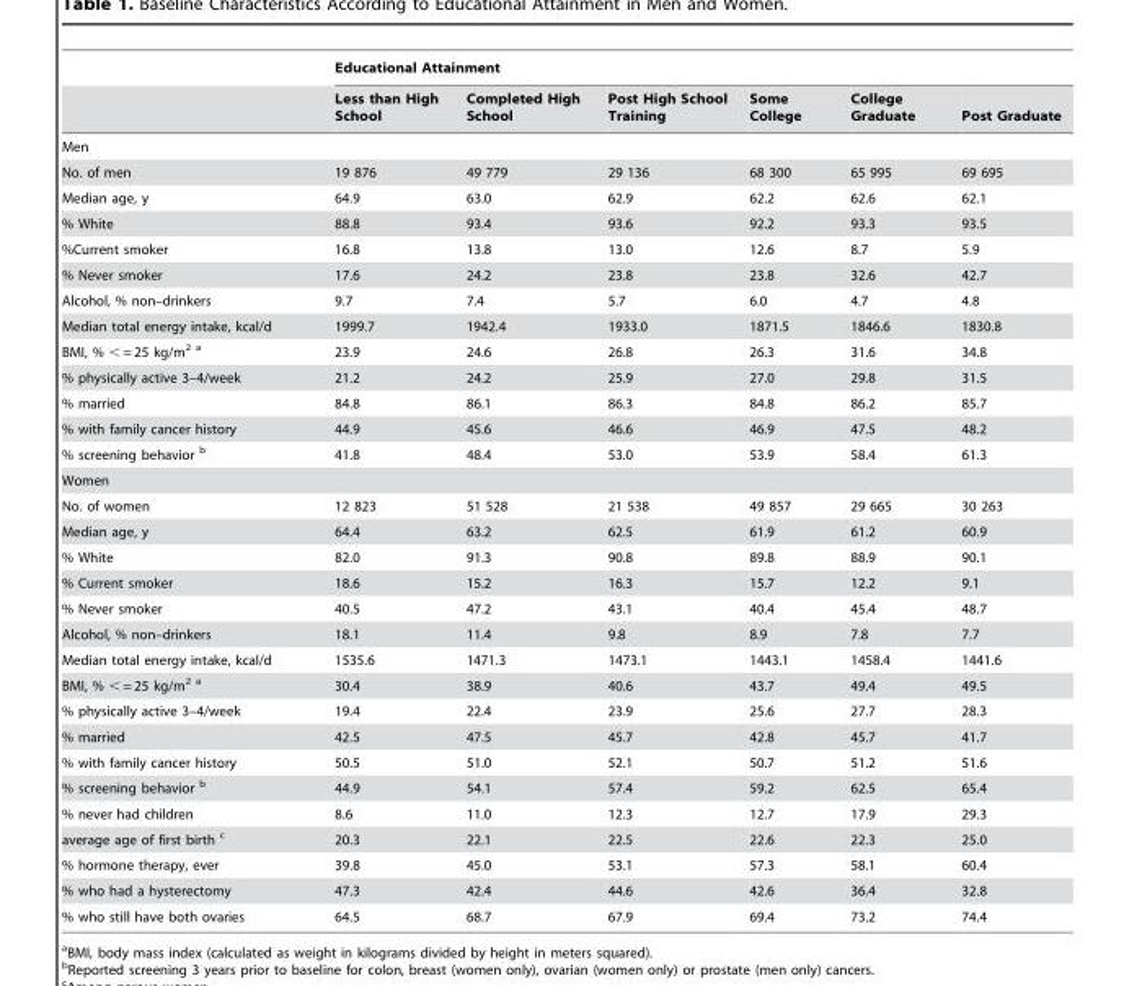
<table><thead><tr><td rowspan="2"></td><td colspan="6">Educational Attainment</td></tr><tr><td>Less than High School</td><td>Completed High School</td><td>Post High School Training</td><td>Some College</td><td>College Graduate</td><td>Post Graduate</td></tr></thead><tbody><tr><td colspan="7">Men</td></tr><tr><td>No. of men</td><td>19 876</td><td>49 779</td><td>29 136</td><td>68 300</td><td>65 995</td><td>69 695</td></tr><tr><td>Median age, y</td><td>64.9</td><td>63.0</td><td>62.9</td><td>62.2</td><td>62.6</td><td>62.1</td></tr><tr><td>% White</td><td>88.8</td><td>93.4</td><td>93.6</td><td>92.2</td><td>93.3</td><td>93.5</td></tr><tr><td>%Current smoker</td><td>16.8</td><td>13.8</td><td>13.0</td><td>12.6</td><td>8.7</td><td>5.9</td></tr><tr><td>% Never smoker</td><td>17.6</td><td>24.2</td><td>23.8</td><td>23.8</td><td>32.6</td><td>42.7</td></tr><tr><td>Alcohol, % non–drinkers</td><td>9.7</td><td>7.4</td><td>5.7</td><td>6.0</td><td>4.7</td><td>4.8</td></tr><tr><td>Median total energy intake, kcal/d</td><td>1999.7</td><td>1942.4</td><td>1933.0</td><td>1871.5</td><td>1846.6</td><td>1830.8</td></tr><tr><td>BMI, % &lt; = 25 kg/m<sup>2</sup> a</td><td>23.9</td><td>24.6</td><td>26.8</td><td>26.3</td><td>31.6</td><td>34.8</td></tr><tr><td>% physically active 3–4/week</td><td>21.2</td><td>24.2</td><td>25.9</td><td>27.0</td><td>29.8</td><td>31.5</td></tr><tr><td>% married</td><td>84.8</td><td>86.1</td><td>86.3</td><td>84.8</td><td>86.2</td><td>85.7</td></tr><tr><td>% with family cancer history</td><td>44.9</td><td>45.6</td><td>46.6</td><td>46.9</td><td>47.5</td><td>48.2</td></tr><tr><td>% screening behavior b</td><td>41.8</td><td>48.4</td><td>53.0</td><td>53.9</td><td>58.4</td><td>61.3</td></tr><tr><td colspan="7">Women</td></tr><tr><td>No. of women</td><td>12 823</td><td>51 528</td><td>21 538</td><td>49 857</td><td>29 665</td><td>30 263</td></tr><tr><td>Median age, y</td><td>64.4</td><td>63.2</td><td>62.5</td><td>61.9</td><td>61.2</td><td>60.9</td></tr><tr><td>% White</td><td>82.0</td><td>91.3</td><td>90.8</td><td>89.8</td><td>88.9</td><td>90.1</td></tr><tr><td>% Current smoker</td><td>18.6</td><td>15.2</td><td>16.3</td><td>15.7</td><td>12.2</td><td>9.1</td></tr><tr><td>% Never smoker</td><td>40.5</td><td>47.2</td><td>43.1</td><td>40.4</td><td>45.4</td><td>48.7</td></tr><tr><td>Alcohol, % non–drinkers</td><td>18.1</td><td>11.4</td><td>9.8</td><td>8.9</td><td>7.8</td><td>7.7</td></tr><tr><td>Median total energy intake, kcal/d</td><td>1535.6</td><td>1471.3</td><td>1473.1</td><td>1443.1</td><td>1458.4</td><td>1441.6</td></tr><tr><td>BMI, % &lt; = 25 kg/m<sup>2</sup> a</td><td>30.4</td><td>38.9</td><td>40.6</td><td>43.7</td><td>49.4</td><td>49.5</td></tr><tr><td>% physically active 3–4/week</td><td>19.4</td><td>22.4</td><td>23.9</td><td>25.6</td><td>27.7</td><td>28.3</td></tr><tr><td>% married</td><td>42.5</td><td>47.5</td><td>45.7</td><td>42.8</td><td>45.7</td><td>41.7</td></tr><tr><td>% with family cancer history</td><td>50.5</td><td>51.0</td><td>52.1</td><td>50.7</td><td>51.2</td><td>51.6</td></tr><tr><td>% screening behavior b</td><td>44.9</td><td>54.1</td><td>57.4</td><td>59.2</td><td>62.5</td><td>65.4</td></tr><tr><td>% never had children</td><td>8.6</td><td>11.0</td><td>12.3</td><td>12.7</td><td>17.9</td><td>29.3</td></tr><tr><td>average age of first birth c</td><td>20.3</td><td>22.1</td><td>22.5</td><td>22.6</td><td>22.3</td><td>25.0</td></tr><tr><td>% hormone therapy, ever</td><td>39.8</td><td>45.0</td><td>53.1</td><td>57.3</td><td>58.1</td><td>60.4</td></tr><tr><td>% who had a hysterectomy</td><td>47.3</td><td>42.4</td><td>44.6</td><td>42.6</td><td>36.4</td><td>32.8</td></tr><tr><td>% who still have both ovaries</td><td>64.5</td><td>68.7</td><td>67.9</td><td>69.4</td><td>73.2</td><td>74.4</td></tr></tbody></table>